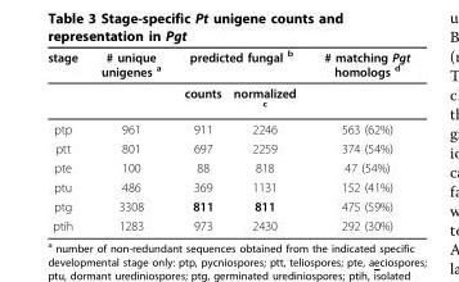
<table><thead><tr><td rowspan="2">stage</td><td rowspan="2"># unique unigenes <sup>a</sup></td><td colspan="2">predicted fungal <sup>b</sup></td><td rowspan="2"># matching Pgt homologs <sup>d</sup></td></tr><tr><td>counts</td><td>normalized <sup>c</sup></td></tr></thead><tbody><tr><td>ptp</td><td>961</td><td>911</td><td>2246</td><td>563 (62%)</td></tr><tr><td>ptt</td><td>801</td><td>697</td><td>2259</td><td>374 (54%)</td></tr><tr><td>pte</td><td>100</td><td>88</td><td>818</td><td>47 (54%)</td></tr><tr><td>ptu</td><td>486</td><td>369</td><td>1131</td><td>152 (41%)</td></tr><tr><td>ptg</td><td>3308</td><td>811</td><td>811</td><td>475 (59%)</td></tr><tr><td>ptih</td><td>1283</td><td>973</td><td>2430</td><td>292 (30%)</td></tr></tbody></table>